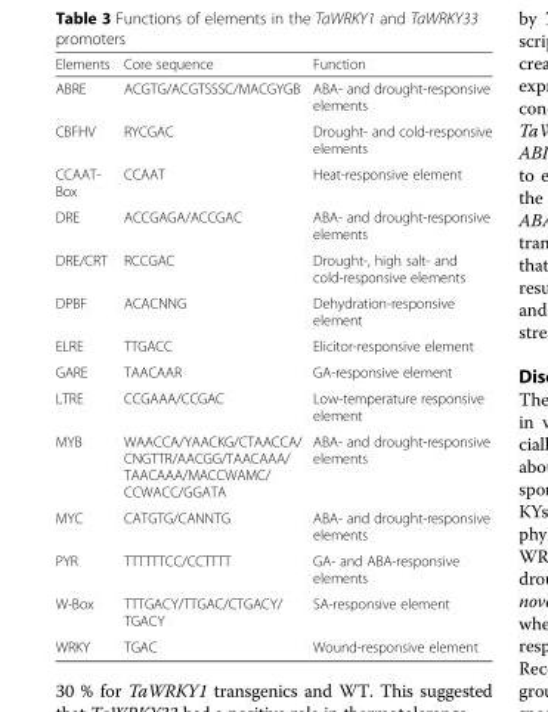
<table><thead><tr><td>Elements</td><td>Core sequence</td><td>Function</td></tr></thead><tbody><tr><td>ABRE</td><td>ACGTG/ACGTSSSC/MACGYGB</td><td>ABA- and drought-responsive elements</td></tr><tr><td>CBFHV</td><td>RYCGAC</td><td>Drought- and cold-responsive elements</td></tr><tr><td>CCAAT- Box</td><td>CCAAT</td><td>Heat-responsive element</td></tr><tr><td>DRE</td><td>ACCGAGA/ACCGAC</td><td>ABA- and drought-responsive elements</td></tr><tr><td>DRE/CRT</td><td>RCCGAC</td><td>Drought-, high salt- and cold-responsive elements</td></tr><tr><td>DPBF</td><td>ACACNNG</td><td>Dehydration-responsive element</td></tr><tr><td>ELRE</td><td>TTGACC</td><td>Elicitor-responsive element</td></tr><tr><td>GARE</td><td>TAACAAR</td><td>GA-responsive element</td></tr><tr><td>LTRE</td><td>CCGAAA/CCGAC</td><td>Low-temperature responsive element</td></tr><tr><td>MYB</td><td>WAACCA/YAACKG/CTAACCA/ CNGTTR/AACGG/TAACAAA/ TAACAAA/MACCWAMC/ CCWACC/GGATA</td><td>ABA- and drought-responsive elements</td></tr><tr><td>MYC</td><td>CATGTG/CANNTG</td><td>ABA- and drought-responsive elements</td></tr><tr><td>PYR</td><td>TTTTTTCC/CCTTTT</td><td>GA- and ABA-responsive elements</td></tr><tr><td>W-Box</td><td>TTTGACY/TTGAC/CTGACY/ TGACY</td><td>SA-responsive element</td></tr><tr><td>WRKY</td><td>TGAC</td><td>Wound-responsive element</td></tr></tbody></table>